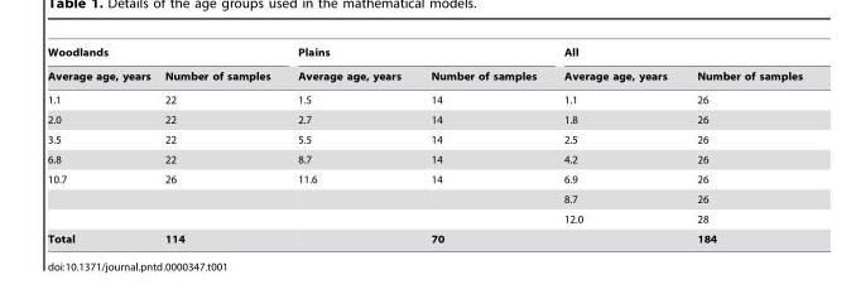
<table><thead><tr><td colspan="2">Woodlands</td><td colspan="2">Plains</td><td colspan="2">All</td></tr><tr><td>Average age, years</td><td>Number of samples</td><td>Average age, years</td><td>Number of samples</td><td>Average age, years</td><td>Number of samples</td></tr></thead><tbody><tr><td>1.1</td><td>22</td><td>1.5</td><td>14</td><td>1.1</td><td>26</td></tr><tr><td>2.0</td><td>22</td><td>2.7</td><td>14</td><td>1.8</td><td>26</td></tr><tr><td>3.5</td><td>22</td><td>5.5</td><td>14</td><td>2.5</td><td>26</td></tr><tr><td>6.8</td><td>22</td><td>8.7</td><td>14</td><td>4.2</td><td>26</td></tr><tr><td rowspan="3">10.7</td><td>26</td><td>11.6</td><td>14</td><td>6.9</td><td>26</td></tr><tr><td></td><td></td><td></td><td>8.7</td><td>26</td></tr><tr><td></td><td></td><td></td><td>12.0</td><td>28</td></tr><tr><td>Total</td><td>114</td><td></td><td>70</td><td></td><td>184</td></tr></tbody></table>